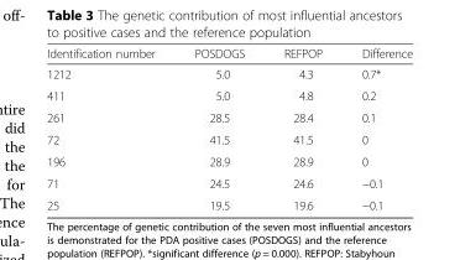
<table><thead><tr><td>Identification number</td><td>POSDOGS</td><td>REFPOP</td><td>Difference</td></tr></thead><tbody><tr><td>1212</td><td>5.0</td><td>4.3</td><td>0.7*</td></tr><tr><td>411</td><td>5.0</td><td>4.8</td><td>0.2</td></tr><tr><td>261</td><td>28.5</td><td>28.4</td><td>0.1</td></tr><tr><td>72</td><td>41.5</td><td>41.5</td><td>0</td></tr><tr><td>196</td><td>28.9</td><td>28.9</td><td>0</td></tr><tr><td>71</td><td>24.5</td><td>24.6</td><td>−0.1</td></tr><tr><td>25</td><td>19.5</td><td>19.6</td><td>−0.1</td></tr></tbody></table>